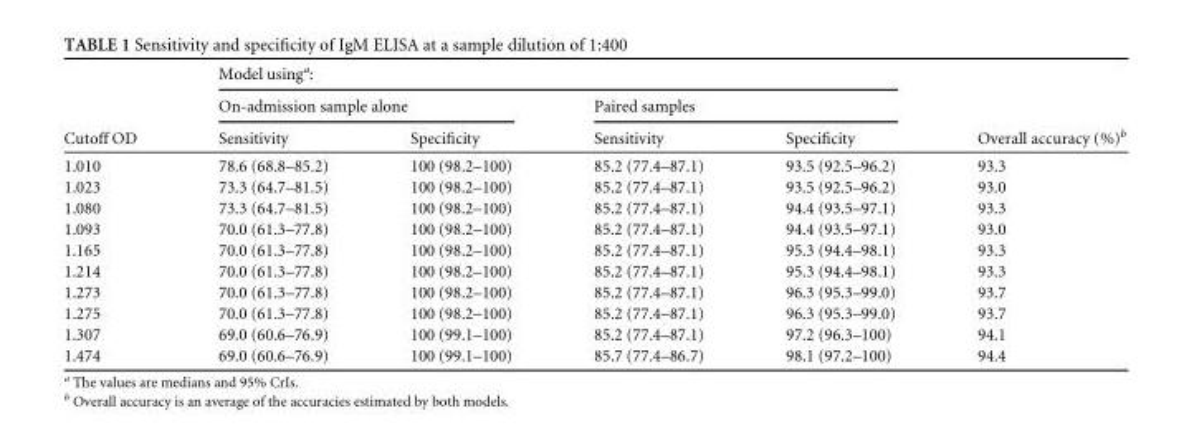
<table><thead><tr><td rowspan="3">Cutoff OD</td><td colspan="4">Model using<sup>a</sup>:</td><td rowspan="3">Overall accuracy (%)<sup>b</sup></td></tr><tr><td colspan="2">On-admission sample alone</td><td colspan="2">Paired samples</td></tr><tr><td>Sensitivity</td><td>Specificity</td><td>Sensitivity</td><td>Specificity</td></tr></thead><tbody><tr><td>1.010</td><td>78.6 (68.8–85.2)</td><td>100 (98.2–100)</td><td>85.2 (77.4–87.1)</td><td>93.5 (92.5–96.2)</td><td>93.3</td></tr><tr><td>1.023</td><td>73.3 (64.7–81.5)</td><td>100 (98.2–100)</td><td>85.2 (77.4–87.1)</td><td>93.5 (92.5–96.2)</td><td>93.0</td></tr><tr><td>1.080</td><td>73.3 (64.7–81.5)</td><td>100 (98.2–100)</td><td>85.2 (77.4–87.1)</td><td>94.4 (93.5–97.1)</td><td>93.3</td></tr><tr><td>1.093</td><td>70.0 (61.3–77.8)</td><td>100 (98.2–100)</td><td>85.2 (77.4–87.1)</td><td>94.4 (93.5–97.1)</td><td>93.0</td></tr><tr><td>1.165</td><td>70.0 (61.3–77.8)</td><td>100 (98.2–100)</td><td>85.2 (77.4–87.1)</td><td>95.3 (94.4–98.1)</td><td>93.3</td></tr><tr><td>1.214</td><td>70.0 (61.3–77.8)</td><td>100 (98.2–100)</td><td>85.2 (77.4–87.1)</td><td>95.3 (94.4–98.1)</td><td>93.3</td></tr><tr><td>1.273</td><td>70.0 (61.3–77.8)</td><td>100 (98.2–100)</td><td>85.2 (77.4–87.1)</td><td>96.3 (95.3–99.0)</td><td>93.7</td></tr><tr><td>1.275</td><td>70.0 (61.3–77.8)</td><td>100 (98.2–100)</td><td>85.2 (77.4–87.1)</td><td>96.3 (95.3–99.0)</td><td>93.7</td></tr><tr><td>1.307</td><td>69.0 (60.6–76.9)</td><td>100 (99.1–100)</td><td>85.2 (77.4–87.1)</td><td>97.2 (96.3–100)</td><td>94.1</td></tr><tr><td>1.474</td><td>69.0 (60.6–76.9)</td><td>100 (99.1–100)</td><td>85.7 (77.4–86.7)</td><td>98.1 (97.2–100)</td><td>94.4</td></tr></tbody></table>